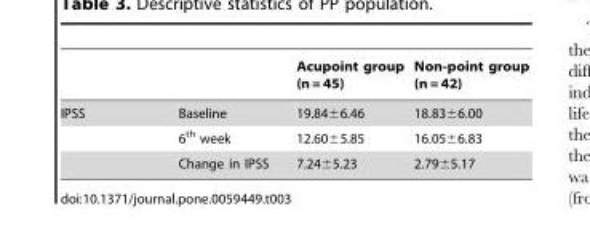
<table><thead><tr><td></td><td></td><td>Acupoint group (n = 45)</td><td>Non-point group (n = 42)</td></tr></thead><tbody><tr><td rowspan="3">IPSS</td><td>Baseline</td><td>19.84±6.46</td><td>18.83±6.00</td></tr><tr><td>6<sup>th</sup> week</td><td>12.60±5.85</td><td>16.05±6.83</td></tr><tr><td>Change in IPSS</td><td>7.24±5.23</td><td>2.79±5.17</td></tr></tbody></table>